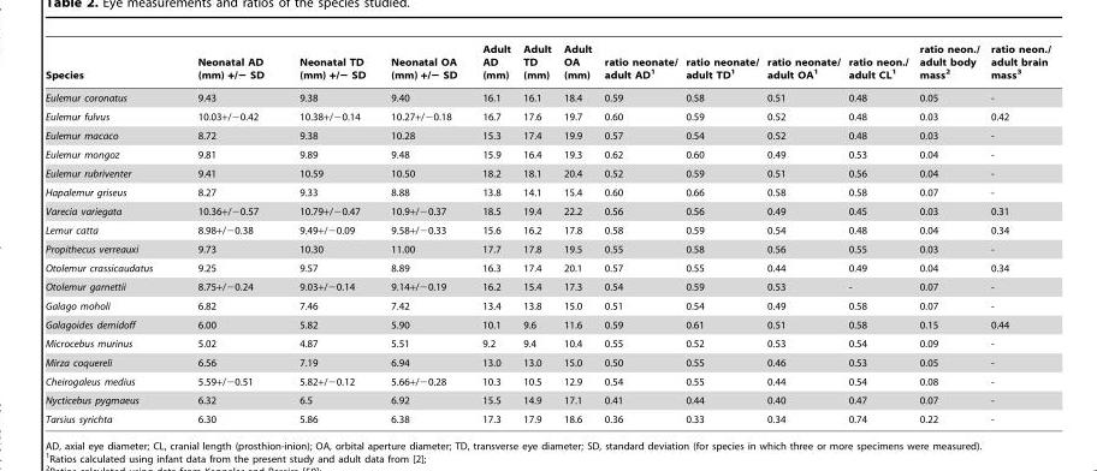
<table><thead><tr><td>Species</td><td>Neonatal AD (mm) +/− SD</td><td>Neonatal TD (mm) +/− SD</td><td>Neonatal OA (mm) +/− SD</td><td>Adult AD (mm)</td><td>Adult TD (mm)</td><td>Adult OA (mm)</td><td>ratio neonate/ adult AD<sup>1</sup></td><td>ratio neonate/ adult TD<sup>1</sup></td><td>ratio neonate/ adult OA<sup>1</sup></td><td>ratio neon./ adult CL<sup>1</sup></td><td>ratio neon./ adult body mass<sup>2</sup></td><td>ratio neon./ adult brain mass<sup>3</sup></td></tr></thead><tbody><tr><td>Eulemur coronatus</td><td>9.43</td><td>9.38</td><td>9.40</td><td>16.1</td><td>16.1</td><td>18.4</td><td>0.59</td><td>0.58</td><td>0.51</td><td>0.48</td><td>0.05</td><td>-</td></tr><tr><td>Eulemur fulvus</td><td>10.03+/−0.42</td><td>10.38+/−0.14</td><td>10.27+/−0.18</td><td>16.7</td><td>17.6</td><td>19.7</td><td>0.60</td><td>0.59</td><td>0.52</td><td>0.48</td><td>0.03</td><td>0.42</td></tr><tr><td>Eulemur macaco</td><td>8.72</td><td>9.38</td><td>10.28</td><td>15.3</td><td>17.4</td><td>19.9</td><td>0.57</td><td>0.54</td><td>0.52</td><td>0.48</td><td>0.03</td><td>-</td></tr><tr><td>Eulemur mongoz</td><td>9.81</td><td>9.89</td><td>9.48</td><td>15.9</td><td>16.4</td><td>19.3</td><td>0.62</td><td>0.60</td><td>0.49</td><td>0.53</td><td>0.04</td><td>-</td></tr><tr><td>Eulemur rubriventer</td><td>9.41</td><td>10.59</td><td>10.50</td><td>18.2</td><td>18.1</td><td>20.4</td><td>0.52</td><td>0.59</td><td>0.51</td><td>0.56</td><td>0.04</td><td>-</td></tr><tr><td>Hapalemur griseus</td><td>8.27</td><td>9.33</td><td>8.88</td><td>13.8</td><td>14.1</td><td>15.4</td><td>0.60</td><td>0.66</td><td>0.58</td><td>0.58</td><td>0.07</td><td>-</td></tr><tr><td>Varecia variegata</td><td>10.36+/−0.57</td><td>10.79+/−0.47</td><td>10.9+/−0.37</td><td>18.5</td><td>19.4</td><td>22.2</td><td>0.56</td><td>0.56</td><td>0.49</td><td>0.45</td><td>0.03</td><td>0.31</td></tr><tr><td>Lemur catta</td><td>8.98+/−0.38</td><td>9.49+/−0.09</td><td>9.58+/−0.33</td><td>15.6</td><td>16.2</td><td>17.8</td><td>0.58</td><td>0.59</td><td>0.54</td><td>0.48</td><td>0.04</td><td>0.34</td></tr><tr><td>Propithecus verreauxi</td><td>9.73</td><td>10.30</td><td>11.00</td><td>17.7</td><td>17.8</td><td>19.5</td><td>0.55</td><td>0.58</td><td>0.56</td><td>0.55</td><td>0.03</td><td>-</td></tr><tr><td>Otolemur crassicaudatus</td><td>9.25</td><td>9.57</td><td>8.89</td><td>16.3</td><td>17.4</td><td>20.1</td><td>0.57</td><td>0.55</td><td>0.44</td><td>0.49</td><td>0.04</td><td>0.34</td></tr><tr><td>Otolemur garnettii</td><td>8.75+/−0.24</td><td>9.03+/−0.14</td><td>9.14+/−0.19</td><td>16.2</td><td>15.4</td><td>17.3</td><td>0.54</td><td>0.59</td><td>0.53</td><td>-</td><td>0.07</td><td>-</td></tr><tr><td>Galago moholi</td><td>6.82</td><td>7.46</td><td>7.42</td><td>13.4</td><td>13.8</td><td>15.0</td><td>0.51</td><td>0.54</td><td>0.49</td><td>0.58</td><td>0.07</td><td>-</td></tr><tr><td>Galagoides demidoff</td><td>6.00</td><td>5.82</td><td>5.90</td><td>10.1</td><td>9.6</td><td>11.6</td><td>0.59</td><td>0.61</td><td>0.51</td><td>0.58</td><td>0.15</td><td>0.44</td></tr><tr><td>Microcebus murinus</td><td>5.02</td><td>4.87</td><td>5.51</td><td>9.2</td><td>9.4</td><td>10.4</td><td>0.55</td><td>0.52</td><td>0.53</td><td>0.54</td><td>0.09</td><td>-</td></tr><tr><td>Mirza coquereli</td><td>6.56</td><td>7.19</td><td>6.94</td><td>13.0</td><td>13.0</td><td>15.0</td><td>0.50</td><td>0.55</td><td>0.46</td><td>0.53</td><td>0.05</td><td>-</td></tr><tr><td>Cheirogaleus medius</td><td>5.59+/−0.51</td><td>5.82+/−0.12</td><td>5.66+/−0.28</td><td>10.3</td><td>10.5</td><td>12.9</td><td>0.54</td><td>0.55</td><td>0.44</td><td>0.54</td><td>0.08</td><td>-</td></tr><tr><td>Nycticebus pygmaeus</td><td>6.32</td><td>6.5</td><td>6.92</td><td>15.5</td><td>14.9</td><td>17.1</td><td>0.41</td><td>0.44</td><td>0.40</td><td>0.47</td><td>0.07</td><td>-</td></tr><tr><td>Tarsius syrichta</td><td>6.30</td><td>5.86</td><td>6.38</td><td>17.3</td><td>17.9</td><td>18.6</td><td>0.36</td><td>0.33</td><td>0.34</td><td>0.74</td><td>0.22</td><td>-</td></tr></tbody></table>